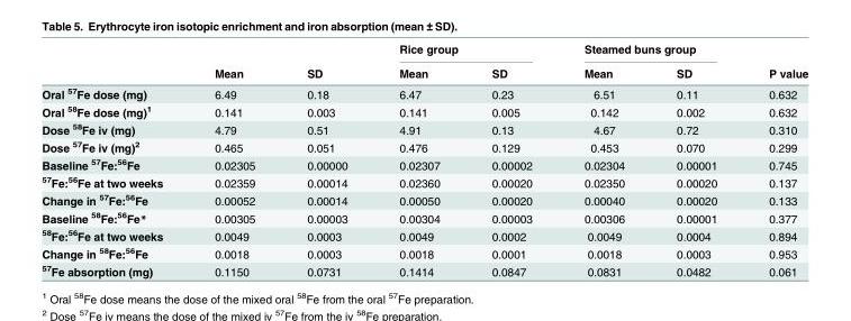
<table><thead><tr><td rowspan="2"></td><td rowspan="2">Mean</td><td rowspan="2">SD</td><td colspan="2">Rice group</td><td colspan="2">Steamed buns group</td><td rowspan="2">P value</td></tr><tr><td>Mean</td><td>SD</td><td>Mean</td><td>SD</td></tr></thead><tbody><tr><td>Oral <sup>57</sup>Fe dose (mg)</td><td>6.49</td><td>0.18</td><td>6.47</td><td>0.23</td><td>6.51</td><td>0.11</td><td>0.632</td></tr><tr><td>Oral <sup>58</sup>Fe dose (mg)<sup>1</sup></td><td>0.141</td><td>0.003</td><td>0.141</td><td>0.005</td><td>0.142</td><td>0.002</td><td>0.632</td></tr><tr><td>Dose <sup>58</sup>Fe iv (mg)</td><td>4.79</td><td>0.51</td><td>4.91</td><td>0.13</td><td>4.67</td><td>0.72</td><td>0.310</td></tr><tr><td>Dose <sup>57</sup>Fe iv (mg)<sup>2</sup></td><td>0.465</td><td>0.051</td><td>0.476</td><td>0.129</td><td>0.453</td><td>0.070</td><td>0.299</td></tr><tr><td>Baseline <sup>57</sup>Fe:<sup>56</sup>Fe</td><td>0.02305</td><td>0.00000</td><td>0.02307</td><td>0.00002</td><td>0.02304</td><td>0.00001</td><td>0.745</td></tr><tr><td><sup>57</sup>Fe:<sup>56</sup>Fe at two weeks</td><td>0.02359</td><td>0.00014</td><td>0.02360</td><td>0.00020</td><td>0.02350</td><td>0.00020</td><td>0.137</td></tr><tr><td>Change in <sup>57</sup>Fe:<sup>56</sup>Fe</td><td>0.00052</td><td>0.00014</td><td>0.00050</td><td>0.00020</td><td>0.00040</td><td>0.00020</td><td>0.133</td></tr><tr><td>Baseline <sup>58</sup>Fe:<sup>56</sup>Fe*</td><td>0.00305</td><td>0.00003</td><td>0.00304</td><td>0.00003</td><td>0.00306</td><td>0.00001</td><td>0.377</td></tr><tr><td><sup>58</sup>Fe:<sup>56</sup>Fe at two weeks</td><td>0.0049</td><td>0.0003</td><td>0.0049</td><td>0.0002</td><td>0.0049</td><td>0.0004</td><td>0.894</td></tr><tr><td>Change in <sup>58</sup>Fe:<sup>56</sup>Fe</td><td>0.0018</td><td>0.0003</td><td>0.0018</td><td>0.0001</td><td>0.0018</td><td>0.0003</td><td>0.953</td></tr><tr><td><sup>57</sup>Fe absorption (mg)</td><td>0.1150</td><td>0.0731</td><td>0.1414</td><td>0.0847</td><td>0.0831</td><td>0.0482</td><td>0.061</td></tr></tbody></table>